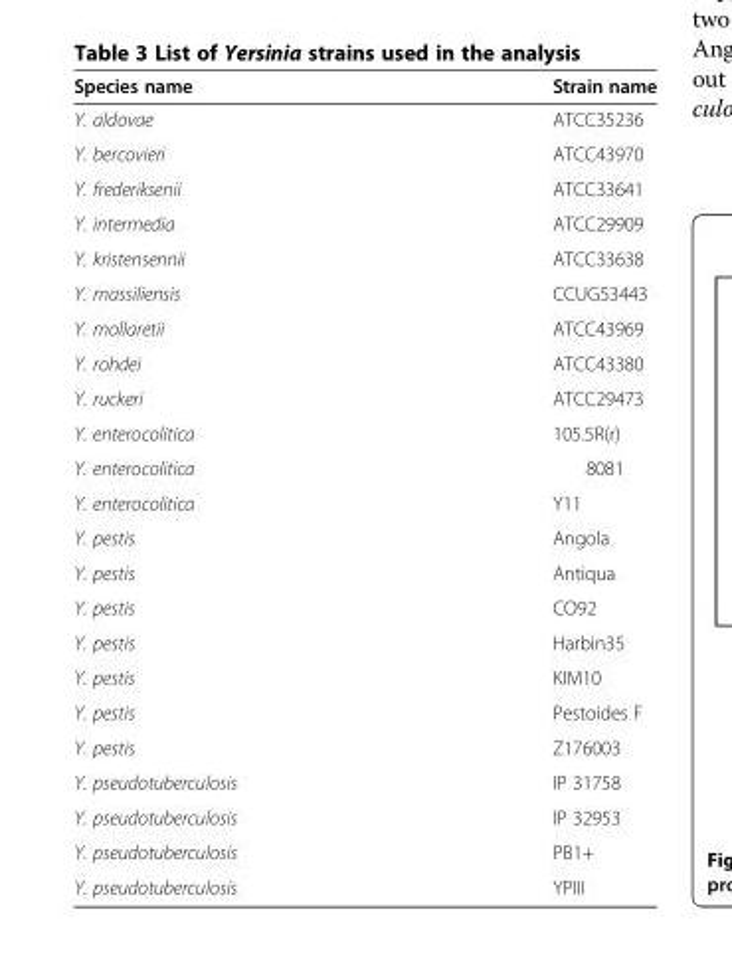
<table><thead><tr><td>Species name</td><td>Strain name</td></tr></thead><tbody><tr><td>Y. aldovae</td><td>ATCC35236</td></tr><tr><td>Y. bercovieri</td><td>ATCC43970</td></tr><tr><td>Y. frederiksenii</td><td>ATCC33641</td></tr><tr><td>Y. intermedia</td><td>ATCC29909</td></tr><tr><td>Y. kristensennii</td><td>ATCC33638</td></tr><tr><td>Y. massiliensis</td><td>CCUG53443</td></tr><tr><td>Y. mollaretii</td><td>ATCC43969</td></tr><tr><td>Y. rohdei</td><td>ATCC43380</td></tr><tr><td>Y. ruckeri</td><td>ATCC29473</td></tr><tr><td>Y. enterocolitica</td><td>105.5R(r)</td></tr><tr><td>Y. enterocolitica</td><td>8081</td></tr><tr><td>Y. enterocolitica</td><td>Y11</td></tr><tr><td>Y. pestis</td><td>Angola</td></tr><tr><td>Y. pestis</td><td>Antiqua</td></tr><tr><td>Y. pestis</td><td>CO92</td></tr><tr><td>Y. pestis</td><td>Harbin35</td></tr><tr><td>Y. pestis</td><td>KIM10</td></tr><tr><td>Y. pestis</td><td>Pestoides F</td></tr><tr><td>Y. pestis</td><td>Z176003</td></tr><tr><td>Y. pseudotuberculosis</td><td>IP 31758</td></tr><tr><td>Y. pseudotuberculosis</td><td>IP 32953</td></tr><tr><td>Y. pseudotuberculosis</td><td>PB1+</td></tr><tr><td>Y. pseudotuberculosis</td><td>YPIII</td></tr></tbody></table>